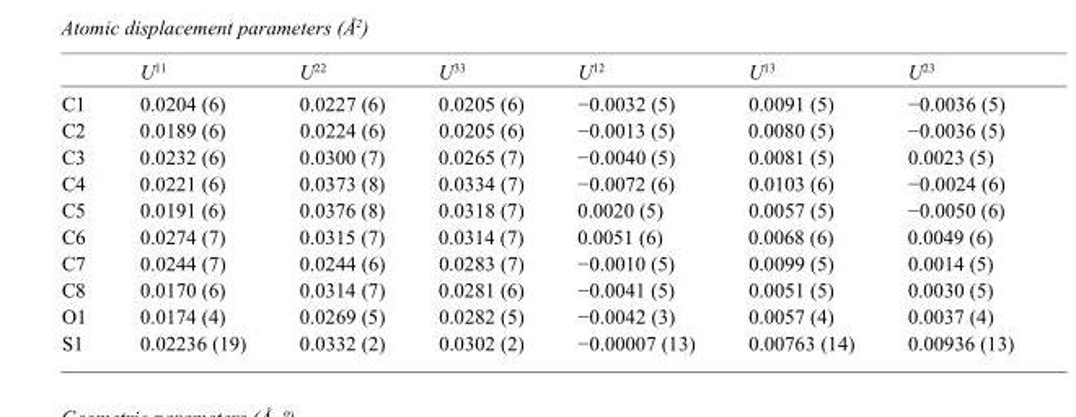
<table><thead><tr><td></td><td>U<sup>11</sup></td><td>U<sup>22</sup></td><td>U<sup>33</sup></td><td>U<sup>12</sup></td><td>U<sup>13</sup></td><td>U<sup>23</sup></td></tr></thead><tbody><tr><td>C1</td><td>0.0204 (6)</td><td>0.0227 (6)</td><td>0.0205 (6)</td><td>−0.0032 (5)</td><td>0.0091 (5)</td><td>−0.0036 (5)</td></tr><tr><td>C2</td><td>0.0189 (6)</td><td>0.0224 (6)</td><td>0.0205 (6)</td><td>−0.0013 (5)</td><td>0.0080 (5)</td><td>−0.0036 (5)</td></tr><tr><td>C3</td><td>0.0232 (6)</td><td>0.0300 (7)</td><td>0.0265 (7)</td><td>−0.0040 (5)</td><td>0.0081 (5)</td><td>0.0023 (5)</td></tr><tr><td>C4</td><td>0.0221 (6)</td><td>0.0373 (8)</td><td>0.0334 (7)</td><td>−0.0072 (6)</td><td>0.0103 (6)</td><td>−0.0024 (6)</td></tr><tr><td>C5</td><td>0.0191 (6)</td><td>0.0376 (8)</td><td>0.0318 (7)</td><td>0.0020 (5)</td><td>0.0057 (5)</td><td>−0.0050 (6)</td></tr><tr><td>C6</td><td>0.0274 (7)</td><td>0.0315 (7)</td><td>0.0314 (7)</td><td>0.0051 (6)</td><td>0.0068 (6)</td><td>0.0049 (6)</td></tr><tr><td>C7</td><td>0.0244 (7)</td><td>0.0244 (6)</td><td>0.0283 (7)</td><td>−0.0010 (5)</td><td>0.0099 (5)</td><td>0.0014 (5)</td></tr><tr><td>C8</td><td>0.0170 (6)</td><td>0.0314 (7)</td><td>0.0281 (6)</td><td>−0.0041 (5)</td><td>0.0051 (5)</td><td>0.0030 (5)</td></tr><tr><td>O1</td><td>0.0174 (4)</td><td>0.0269 (5)</td><td>0.0282 (5)</td><td>−0.0042 (3)</td><td>0.0057 (4)</td><td>0.0037 (4)</td></tr><tr><td>S1</td><td>0.02236 (19)</td><td>0.0332 (2)</td><td>0.0302 (2)</td><td>−0.00007 (13)</td><td>0.00763 (14)</td><td>0.00936 (13)</td></tr></tbody></table>